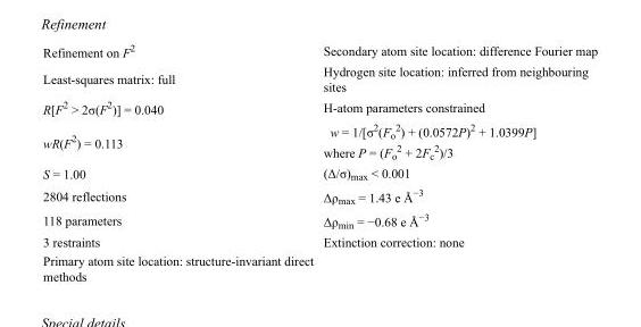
<table><tbody><tr><td>Refinement on F<sup>2</sup></td><td>Secondary atom site location: difference Fourier map</td></tr><tr><td>Least-squares matrix: full</td><td>Hydrogen site location: inferred from neighbouring sites</td></tr><tr><td>R[F<sup>2</sup> &gt; 2σ(F<sup>2</sup>)] = 0.040</td><td>H-atom parameters constrained</td></tr><tr><td>wR(F<sup>2</sup>) = 0.113</td><td>w = 1/[σ<sup>2</sup>(F<sub>o</sub> <sup>2</sup>) + (0.0572P)<sup>2</sup> + 1.0399P] where P = (F<sub>o</sub> <sup>2</sup> + 2F<sub>c</sub> <sup>2</sup>)/3</td></tr><tr><td>S = 1.00</td><td>(Δ/σ)<sub>max</sub> &lt; 0.001</td></tr><tr><td>2804 reflections</td><td>Δρ<sub>max</sub> = 1.43 e Å<sup>−3</sup></td></tr><tr><td>118 parameters</td><td>Δρ<sub>min</sub> = −0.68 e Å<sup>−3</sup></td></tr><tr><td>3 restraints</td><td>Extinction correction: none</td></tr><tr><td>Primary atom site location: structure-invariant direct methods</td><td></td></tr></tbody></table>